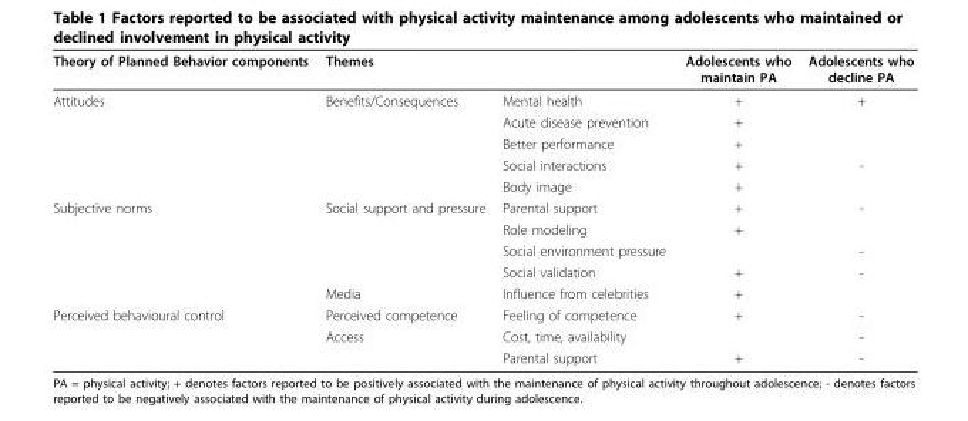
<table><thead><tr><td>Theory of Planned Behavior components</td><td>Themes</td><td></td><td>Adolescents who maintain PA</td><td>Adolescents who decline PA</td></tr></thead><tbody><tr><td rowspan="5">Attitudes</td><td>Benefits/Consequences</td><td>Mental health</td><td>+</td><td>+</td></tr><tr><td></td><td>Acute disease prevention</td><td>+</td><td></td></tr><tr><td></td><td>Better performance</td><td>+</td><td></td></tr><tr><td></td><td>Social interactions</td><td>+</td><td>-</td></tr><tr><td></td><td>Body image</td><td>+</td><td></td></tr><tr><td rowspan="5">Subjective norms</td><td>Social support and pressure</td><td>Parental support</td><td>+</td><td>-</td></tr><tr><td></td><td>Role modeling</td><td>+</td><td></td></tr><tr><td></td><td>Social environment pressure</td><td></td><td>-</td></tr><tr><td></td><td>Social validation</td><td>+</td><td>-</td></tr><tr><td>Media</td><td>Influence from celebrities</td><td>+</td><td></td></tr><tr><td rowspan="3">Perceived behavioural control</td><td>Perceived competence</td><td>Feeling of competence</td><td>+</td><td>-</td></tr><tr><td>Access</td><td>Cost, time, availability</td><td></td><td>-</td></tr><tr><td></td><td>Parental support</td><td>+</td><td>-</td></tr></tbody></table>